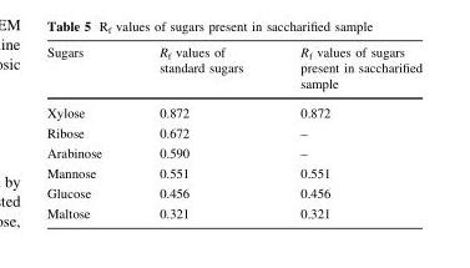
<table><thead><tr><td>Sugars</td><td>R<sub>f</sub> values of standard sugars</td><td>R<sub>f</sub> values of sugars present in saccharified sample</td></tr></thead><tbody><tr><td>Xylose</td><td>0.872</td><td>0.872</td></tr><tr><td>Ribose</td><td>0.672</td><td>–</td></tr><tr><td>Arabinose</td><td>0.590</td><td>–</td></tr><tr><td>Mannose</td><td>0.551</td><td>0.551</td></tr><tr><td>Glucose</td><td>0.456</td><td>0.456</td></tr><tr><td>Maltose</td><td>0.321</td><td>0.321</td></tr></tbody></table>